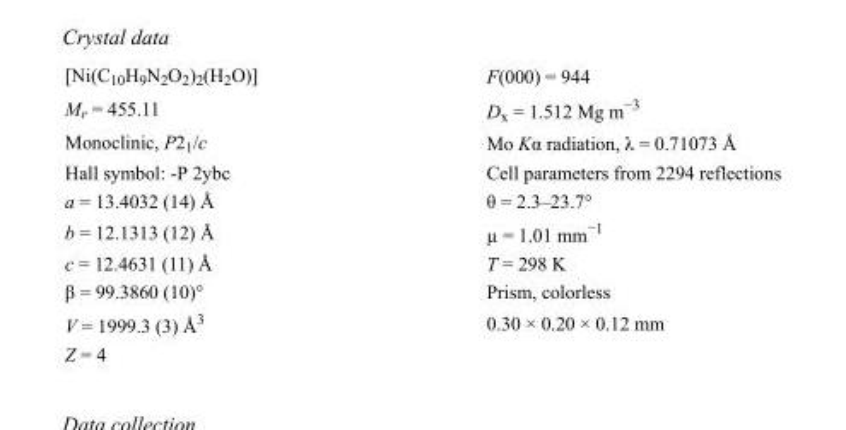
<table><tbody><tr><td>[Ni(C<sub>10</sub>H<sub>9</sub>N<sub>2</sub>O<sub>2</sub>)<sub>2</sub>(H<sub>2</sub>O)]</td><td>F(000) = 944</td></tr><tr><td>M<sub>r</sub> = 455.11</td><td>D<sub>x</sub> = 1.512 Mg m<sup>−3</sup></td></tr><tr><td>Monoclinic, P2<sub>1</sub>/c</td><td>Mo Kα radiation, λ = 0.71073 Å</td></tr><tr><td>Hall symbol: -P 2ybc</td><td>Cell parameters from 2294 reflections</td></tr><tr><td>a = 13.4032 (14) Å</td><td>θ = 2.3–23.7°</td></tr><tr><td>b = 12.1313 (12) Å</td><td>µ = 1.01 mm<sup>−1</sup></td></tr><tr><td>c = 12.4631 (11) Å</td><td>T = 298 K</td></tr><tr><td>β = 99.3860 (10)°</td><td>Prism, colorless</td></tr><tr><td>V = 1999.3 (3) Å<sup>3</sup></td><td>0.30 × 0.20 × 0.12 mm</td></tr><tr><td>Z = 4</td><td></td></tr></tbody></table>